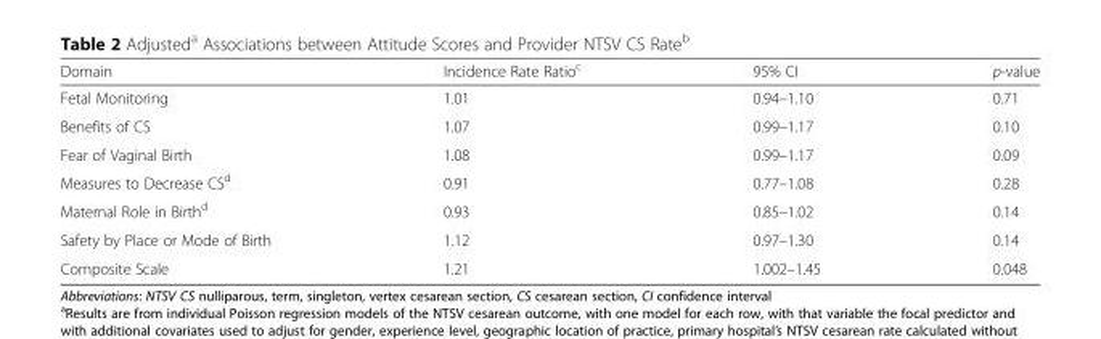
<table><thead><tr><td>Domain</td><td>Incidence Rate Ratio<sup>c</sup></td><td>95% CI</td><td>p-value</td></tr></thead><tbody><tr><td>Fetal Monitoring</td><td>1.01</td><td>0.94–1.10</td><td>0.71</td></tr><tr><td>Benefits of CS</td><td>1.07</td><td>0.99–1.17</td><td>0.10</td></tr><tr><td>Fear of Vaginal Birth</td><td>1.08</td><td>0.99–1.17</td><td>0.09</td></tr><tr><td>Measures to Decrease CS<sup>d</sup></td><td>0.91</td><td>0.77–1.08</td><td>0.28</td></tr><tr><td>Maternal Role in Birth<sup>d</sup></td><td>0.93</td><td>0.85–1.02</td><td>0.14</td></tr><tr><td>Safety by Place or Mode of Birth</td><td>1.12</td><td>0.97–1.30</td><td>0.14</td></tr><tr><td>Composite Scale</td><td>1.21</td><td>1.002–1.45</td><td>0.048</td></tr></tbody></table>